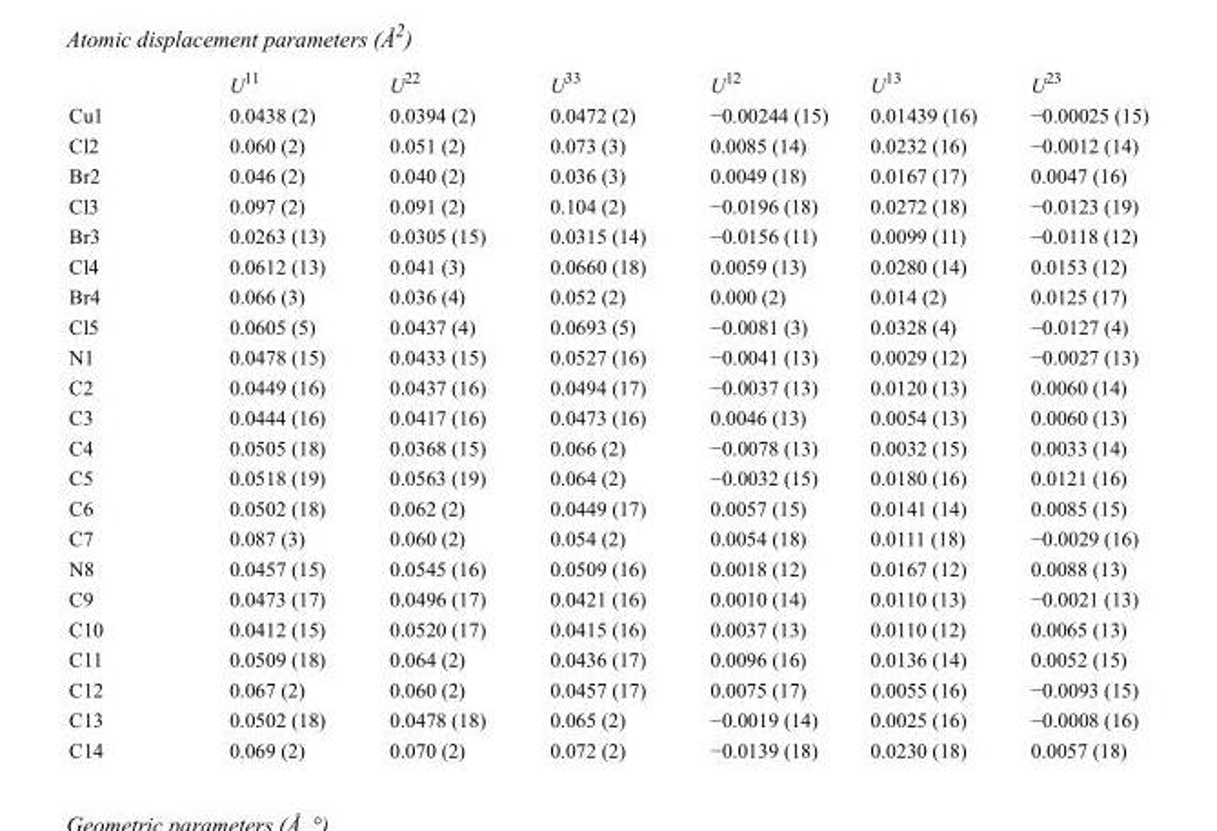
<table><thead><tr><td></td><td>U<sup>11</sup></td><td>U<sup>22</sup></td><td>U<sup>33</sup></td><td>U<sup>12</sup></td><td>U<sup>13</sup></td><td>U<sup>23</sup></td></tr></thead><tbody><tr><td>Cu1</td><td>0.0438 (2)</td><td>0.0394 (2)</td><td>0.0472 (2)</td><td>−0.00244 (15)</td><td>0.01439 (16)</td><td>−0.00025 (15)</td></tr><tr><td>Cl2</td><td>0.060 (2)</td><td>0.051 (2)</td><td>0.073 (3)</td><td>0.0085 (14)</td><td>0.0232 (16)</td><td>−0.0012 (14)</td></tr><tr><td>Br2</td><td>0.046 (2)</td><td>0.040 (2)</td><td>0.036 (3)</td><td>0.0049 (18)</td><td>0.0167 (17)</td><td>0.0047 (16)</td></tr><tr><td>Cl3</td><td>0.097 (2)</td><td>0.091 (2)</td><td>0.104 (2)</td><td>−0.0196 (18)</td><td>0.0272 (18)</td><td>−0.0123 (19)</td></tr><tr><td>Br3</td><td>0.0263 (13)</td><td>0.0305 (15)</td><td>0.0315 (14)</td><td>−0.0156 (11)</td><td>0.0099 (11)</td><td>−0.0118 (12)</td></tr><tr><td>Cl4</td><td>0.0612 (13)</td><td>0.041 (3)</td><td>0.0660 (18)</td><td>0.0059 (13)</td><td>0.0280 (14)</td><td>0.0153 (12)</td></tr><tr><td>Br4</td><td>0.066 (3)</td><td>0.036 (4)</td><td>0.052 (2)</td><td>0.000 (2)</td><td>0.014 (2)</td><td>0.0125 (17)</td></tr><tr><td>Cl5</td><td>0.0605 (5)</td><td>0.0437 (4)</td><td>0.0693 (5)</td><td>−0.0081 (3)</td><td>0.0328 (4)</td><td>−0.0127 (4)</td></tr><tr><td>N1</td><td>0.0478 (15)</td><td>0.0433 (15)</td><td>0.0527 (16)</td><td>−0.0041 (13)</td><td>0.0029 (12)</td><td>−0.0027 (13)</td></tr><tr><td>C2</td><td>0.0449 (16)</td><td>0.0437 (16)</td><td>0.0494 (17)</td><td>−0.0037 (13)</td><td>0.0120 (13)</td><td>0.0060 (14)</td></tr><tr><td>C3</td><td>0.0444 (16)</td><td>0.0417 (16)</td><td>0.0473 (16)</td><td>0.0046 (13)</td><td>0.0054 (13)</td><td>0.0060 (13)</td></tr><tr><td>C4</td><td>0.0505 (18)</td><td>0.0368 (15)</td><td>0.066 (2)</td><td>−0.0078 (13)</td><td>0.0032 (15)</td><td>0.0033 (14)</td></tr><tr><td>C5</td><td>0.0518 (19)</td><td>0.0563 (19)</td><td>0.064 (2)</td><td>−0.0032 (15)</td><td>0.0180 (16)</td><td>0.0121 (16)</td></tr><tr><td>C6</td><td>0.0502 (18)</td><td>0.062 (2)</td><td>0.0449 (17)</td><td>0.0057 (15)</td><td>0.0141 (14)</td><td>0.0085 (15)</td></tr><tr><td>C7</td><td>0.087 (3)</td><td>0.060 (2)</td><td>0.054 (2)</td><td>0.0054 (18)</td><td>0.0111 (18)</td><td>−0.0029 (16)</td></tr><tr><td>N8</td><td>0.0457 (15)</td><td>0.0545 (16)</td><td>0.0509 (16)</td><td>0.0018 (12)</td><td>0.0167 (12)</td><td>0.0088 (13)</td></tr><tr><td>C9</td><td>0.0473 (17)</td><td>0.0496 (17)</td><td>0.0421 (16)</td><td>0.0010 (14)</td><td>0.0110 (13)</td><td>−0.0021 (13)</td></tr><tr><td>C10</td><td>0.0412 (15)</td><td>0.0520 (17)</td><td>0.0415 (16)</td><td>0.0037 (13)</td><td>0.0110 (12)</td><td>0.0065 (13)</td></tr><tr><td>C11</td><td>0.0509 (18)</td><td>0.064 (2)</td><td>0.0436 (17)</td><td>0.0096 (16)</td><td>0.0136 (14)</td><td>0.0052 (15)</td></tr><tr><td>C12</td><td>0.067 (2)</td><td>0.060 (2)</td><td>0.0457 (17)</td><td>0.0075 (17)</td><td>0.0055 (16)</td><td>−0.0093 (15)</td></tr><tr><td>C13</td><td>0.0502 (18)</td><td>0.0478 (18)</td><td>0.065 (2)</td><td>−0.0019 (14)</td><td>0.0025 (16)</td><td>−0.0008 (16)</td></tr><tr><td>C14</td><td>0.069 (2)</td><td>0.070 (2)</td><td>0.072 (2)</td><td>−0.0139 (18)</td><td>0.0230 (18)</td><td>0.0057 (18)</td></tr></tbody></table>